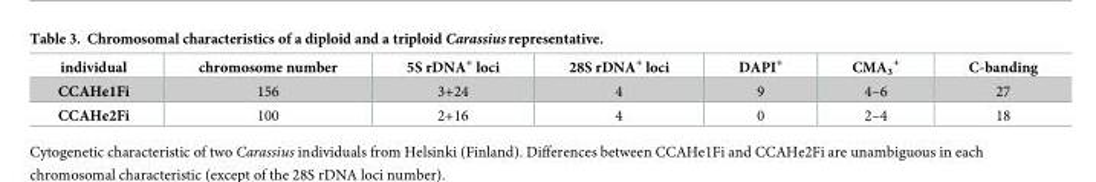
<table><thead><tr><td>individual</td><td>chromosome number</td><td>5S rDNA<sup>+</sup> loci</td><td>28S rDNA<sup>+</sup> loci</td><td>DAPI<sup>+</sup></td><td>CMA<sub>3</sub> <sup>+</sup></td><td>C-banding</td></tr></thead><tbody><tr><td>CCAHe1Fi</td><td>156</td><td>3+24</td><td>4</td><td>9</td><td>4–6</td><td>27</td></tr><tr><td>CCAHe2Fi</td><td>100</td><td>2+16</td><td>4</td><td>0</td><td>2–4</td><td>18</td></tr></tbody></table>